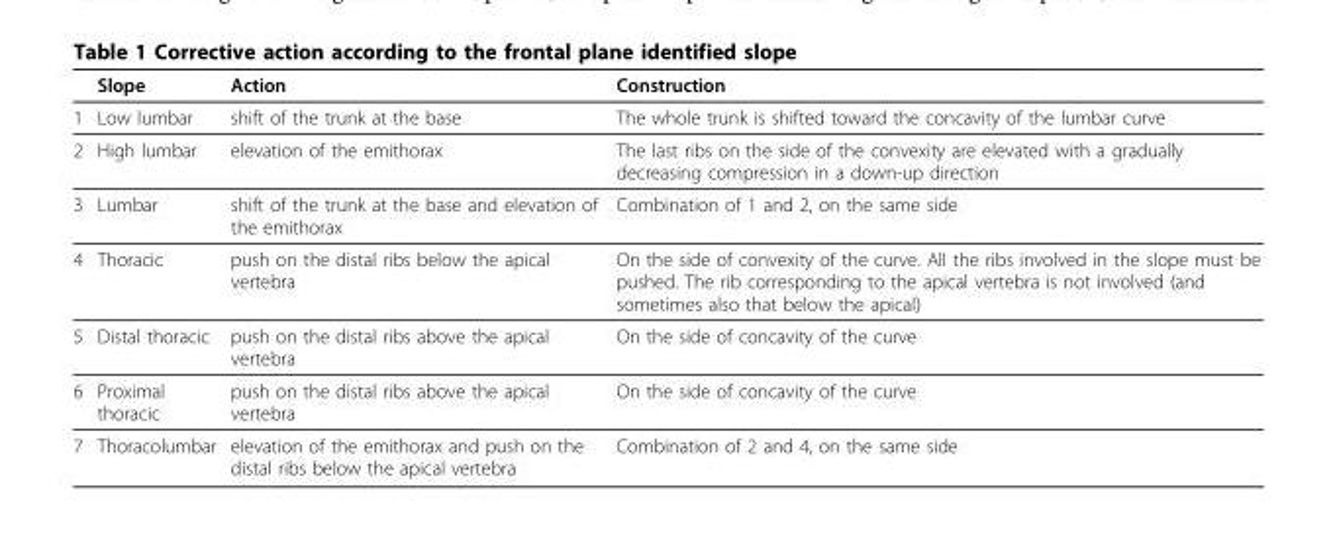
<table><thead><tr><td></td><td>Slope</td><td>Action</td><td>Construction</td></tr></thead><tbody><tr><td>1</td><td>Low lumbar</td><td>shift of the trunk at the base</td><td>The whole trunk is shifted toward the concavity of the lumbar curve</td></tr><tr><td>2</td><td>High lumbar</td><td>elevation of the emithorax</td><td>The last ribs on the side of the convexity are elevated with a gradually decreasing compression in a down-up direction</td></tr><tr><td>3</td><td>Lumbar</td><td>shift of the trunk at the base and elevation of the emithorax</td><td>Combination of 1 and 2, on the same side</td></tr><tr><td>4</td><td>Thoracic</td><td>push on the distal ribs below the apical vertebra</td><td>On the side of convexity of the curve. All the ribs involved in the slope must be pushed. The rib corresponding to the apical vertebra is not involved (and sometimes also that below the apical)</td></tr><tr><td>5</td><td>Distal thoracic</td><td>push on the distal ribs above the apical vertebra</td><td>On the side of concavity of the curve</td></tr><tr><td>6</td><td>Proximal thoracic</td><td>push on the distal ribs above the apical vertebra</td><td>On the side of concavity of the curve</td></tr><tr><td>7</td><td>Thoracolumbar</td><td>elevation of the emithorax and push on the distal ribs below the apical vertebra</td><td>Combination of 2 and 4, on the same side</td></tr></tbody></table>